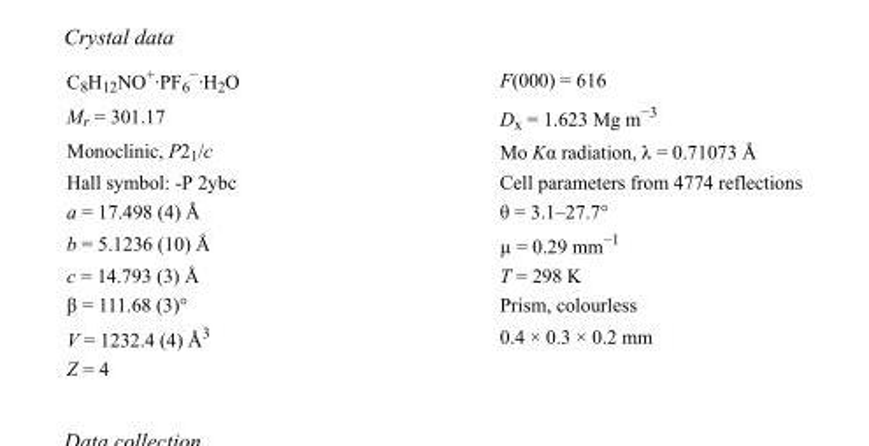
<table><tbody><tr><td>C<sub>8</sub>H<sub>12</sub>NO<sup>+</sup>·PF<sub>6</sub> <sup>−</sup>·H<sub>2</sub>O</td><td>F(000) = 616</td></tr><tr><td>M<sub>r</sub> = 301.17</td><td>D<sub>x</sub> = 1.623 Mg m<sup>−3</sup></td></tr><tr><td>Monoclinic, P2<sub>1</sub>/c</td><td>Mo Kα radiation, λ = 0.71073 Å</td></tr><tr><td>Hall symbol: -P 2ybc</td><td>Cell parameters from 4774 reflections</td></tr><tr><td>a = 17.498 (4) Å</td><td>θ = 3.1–27.7°</td></tr><tr><td>b = 5.1236 (10) Å</td><td>µ = 0.29 mm<sup>−1</sup></td></tr><tr><td>c = 14.793 (3) Å</td><td>T = 298 K</td></tr><tr><td>β = 111.68 (3)°</td><td>Prism, colourless</td></tr><tr><td>V = 1232.4 (4) Å<sup>3</sup></td><td>0.4 × 0.3 × 0.2 mm</td></tr><tr><td>Z = 4</td><td></td></tr></tbody></table>